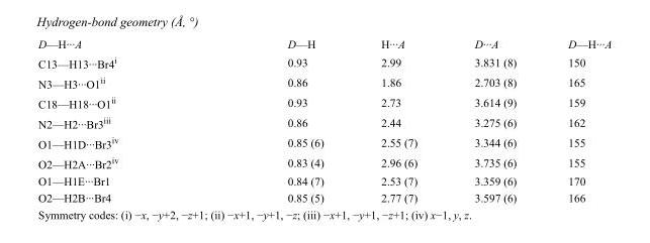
<table><tbody><tr><td>D—H···A</td><td>D—H</td><td>H···A</td><td>D···A</td><td>D—H···A</td></tr><tr><td>C13—H13···Br4<sup>i</sup></td><td>0.93</td><td>2.99</td><td>3.831 (8)</td><td>150</td></tr><tr><td>N3—H3···O1<sup>ii</sup></td><td>0.86</td><td>1.86</td><td>2.703 (8)</td><td>165</td></tr><tr><td>C18—H18···O1<sup>ii</sup></td><td>0.93</td><td>2.73</td><td>3.614 (9)</td><td>159</td></tr><tr><td>N2—H2···Br3<sup>iii</sup></td><td>0.86</td><td>2.44</td><td>3.275 (6)</td><td>162</td></tr><tr><td>O1—H1D···Br3<sup>iv</sup></td><td>0.85 (6)</td><td>2.55 (7)</td><td>3.344 (6)</td><td>155</td></tr><tr><td>O2—H2A···Br2<sup>iv</sup></td><td>0.83 (4)</td><td>2.96 (6)</td><td>3.735 (6)</td><td>155</td></tr><tr><td>O1—H1E···Br1</td><td>0.84 (7)</td><td>2.53 (7)</td><td>3.359 (6)</td><td>170</td></tr><tr><td>O2—H2B···Br4</td><td>0.85 (5)</td><td>2.77 (7)</td><td>3.597 (6)</td><td>166</td></tr></tbody></table>